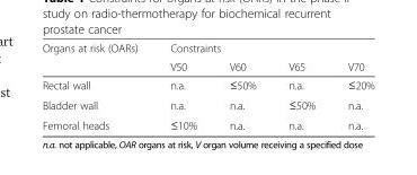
<table><thead><tr><td rowspan="2">Organs at risk (OARs)</td><td colspan="4">Constraints</td></tr><tr><td>V50</td><td>V60</td><td>V65</td><td>V70</td></tr></thead><tbody><tr><td>Rectal wall</td><td>n.a.</td><td>≤50%</td><td>n.a.</td><td>≤20%</td></tr><tr><td>Bladder wall</td><td>n.a.</td><td>n.a.</td><td>≤50%</td><td>n.a.</td></tr><tr><td>Femoral heads</td><td>≤10%</td><td>n.a.</td><td>n.a.</td><td>n.a.</td></tr></tbody></table>